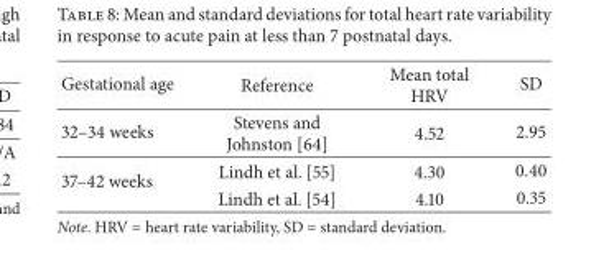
<table><thead><tr><td>Gestational age</td><td>Reference</td><td>Mean total HRV</td><td>SD</td></tr></thead><tbody><tr><td>32–34 weeks</td><td>Stevens and Johnston [64]</td><td>4.52</td><td>2.95</td></tr><tr><td rowspan="2">37–42 weeks</td><td>Lindh et al. [55]</td><td>4.30</td><td>0.40</td></tr><tr><td>Lindh et al. [54]</td><td>4.10</td><td>0.35</td></tr></tbody></table>